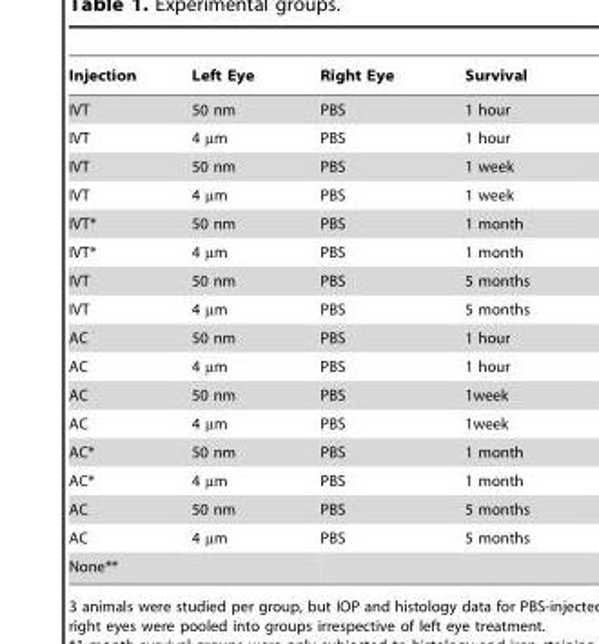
<table><thead><tr><td>Injection</td><td>Left Eye</td><td>Right Eye</td><td>Survival</td></tr></thead><tbody><tr><td>IVT</td><td>50 nm</td><td>PBS</td><td>1 hour</td></tr><tr><td>IVT</td><td>4 µm</td><td>PBS</td><td>1 hour</td></tr><tr><td>IVT</td><td>50 nm</td><td>PBS</td><td>1 week</td></tr><tr><td>IVT</td><td>4 µm</td><td>PBS</td><td>1 week</td></tr><tr><td>IVT*</td><td>50 nm</td><td>PBS</td><td>1 month</td></tr><tr><td>IVT*</td><td>4 µm</td><td>PBS</td><td>1 month</td></tr><tr><td>IVT</td><td>50 nm</td><td>PBS</td><td>5 months</td></tr><tr><td>IVT</td><td>4 µm</td><td>PBS</td><td>5 months</td></tr><tr><td>AC</td><td>50 nm</td><td>PBS</td><td>1 hour</td></tr><tr><td>AC</td><td>4 µm</td><td>PBS</td><td>1 hour</td></tr><tr><td>AC</td><td>50 nm</td><td>PBS</td><td>1week</td></tr><tr><td>AC</td><td>4 µm</td><td>PBS</td><td>1week</td></tr><tr><td>AC*</td><td>50 nm</td><td>PBS</td><td>1 month</td></tr><tr><td>AC*</td><td>4 µm</td><td>PBS</td><td>1 month</td></tr><tr><td>AC</td><td>50 nm</td><td>PBS</td><td>5 months</td></tr><tr><td>AC</td><td>4 µm</td><td>PBS</td><td>5 months</td></tr><tr><td>None**</td><td></td><td></td><td></td></tr></tbody></table>